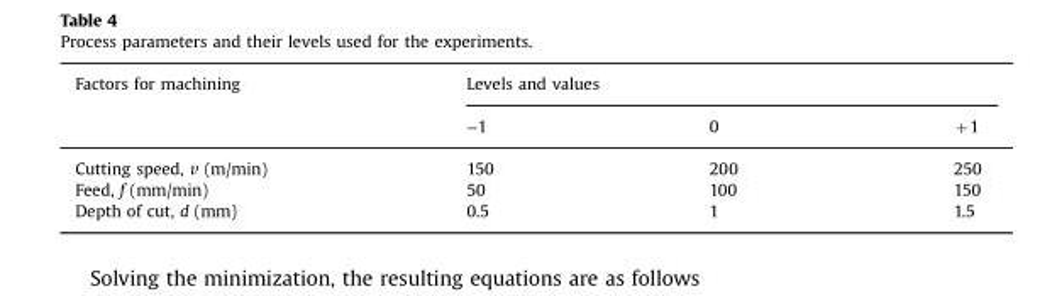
<table><thead><tr><td rowspan="2">Factors for machining</td><td colspan="3">Levels and values</td></tr><tr><td>−1</td><td>0</td><td>+1</td></tr></thead><tbody><tr><td>Cutting speed, v (m/min)</td><td>150</td><td>200</td><td>250</td></tr><tr><td>Feed, f (mm/min)</td><td>50</td><td>100</td><td>150</td></tr><tr><td>Depth of cut, d (mm)</td><td>0.5</td><td>1</td><td>1.5</td></tr></tbody></table>